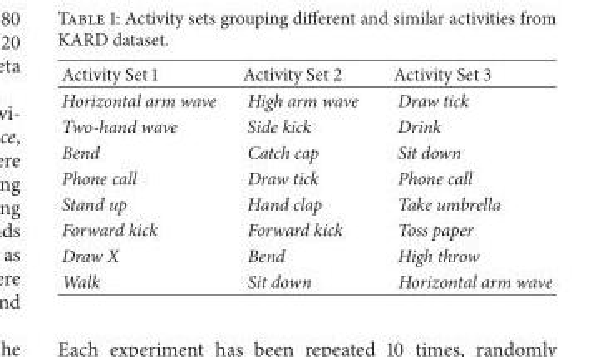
<table><thead><tr><td>Activity Set 1</td><td>Activity Set 2</td><td>Activity Set 3</td></tr></thead><tbody><tr><td>Horizontal arm wave</td><td>High arm wave</td><td>Draw tick</td></tr><tr><td>Two-hand wave</td><td>Side kick</td><td>Drink</td></tr><tr><td>Bend</td><td>Catch cap</td><td>Sit down</td></tr><tr><td>Phone call</td><td>Draw tick</td><td>Phone call</td></tr><tr><td>Stand up</td><td>Hand clap</td><td>Take umbrella</td></tr><tr><td>Forward kick</td><td>Forward kick</td><td>Toss paper</td></tr><tr><td>Draw X</td><td>Bend</td><td>High throw</td></tr><tr><td>Walk</td><td>Sit down</td><td>Horizontal arm wave</td></tr></tbody></table>